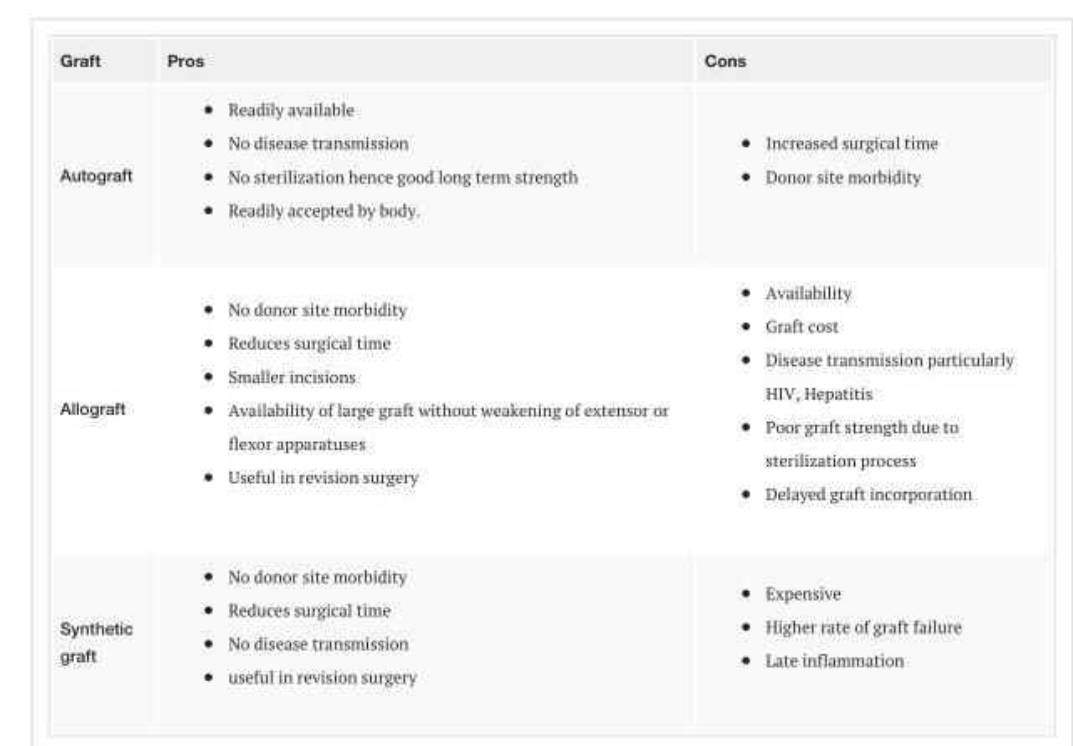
<table><tbody><tr><td>Graft</td><td>Pros</td><td>Cons</td></tr><tr><td>Autograft</td><td>Readily available No disease transmission No sterilization hence good long term strength Readily accepted by body.</td><td>Increased surgical time Donor site morbidity</td></tr><tr><td>Allograft</td><td>No donor site morbidity Reduces surgical time Smaller incisions Availability of large graft without weakening of extensor or flexor apparatuses Useful in revision surgery</td><td>Availability Graft cost Disease transmission particularly HIV, Hepatitis Poor graft strength due to sterilization process Delayed graft incorporation</td></tr><tr><td>Synthetic graft</td><td>No donor site morbidity Reduces surgical time No disease transmission useful in revision surgery</td><td>Expensive Higher rate of graft failure Late inflammation</td></tr></tbody></table>